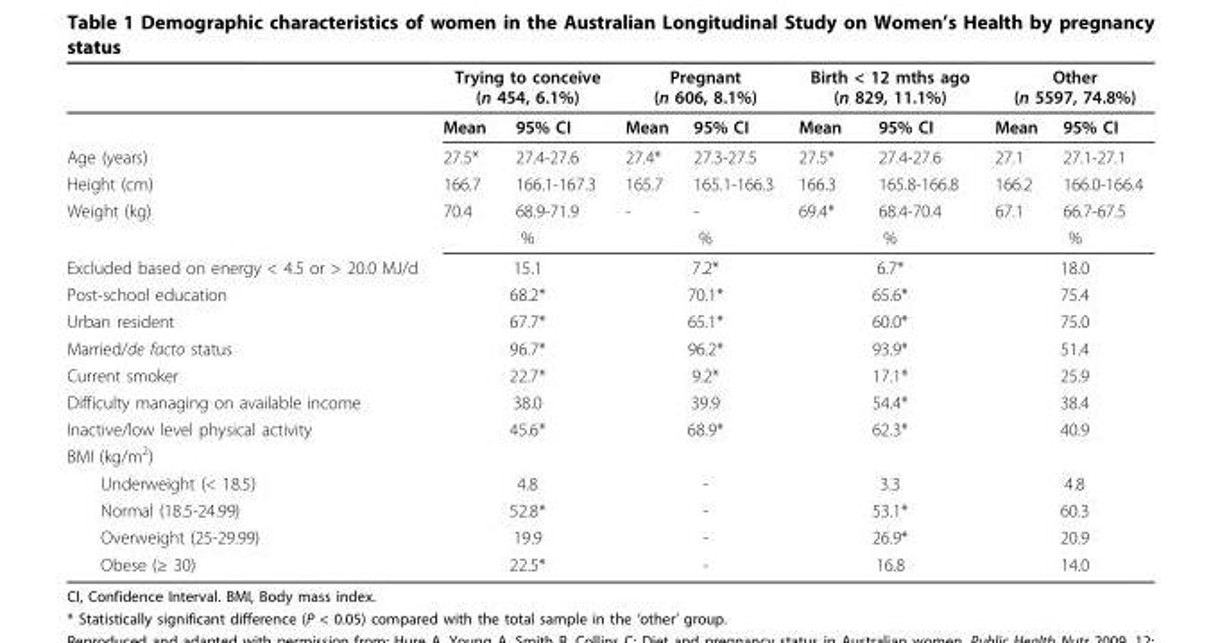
<table><thead><tr><td rowspan="2"></td><td colspan="2">Trying to conceive (n 454, 6.1%)</td><td colspan="2">Pregnant (n 606, 8.1%)</td><td colspan="2">Birth &lt; 12 mths ago (n 829, 11.1%)</td><td colspan="2">Other (n 5597, 74.8%)</td></tr><tr><td>Mean</td><td>95% CI</td><td>Mean</td><td>95% CI</td><td>Mean</td><td>95% CI</td><td>Mean</td><td>95% CI</td></tr></thead><tbody><tr><td>Age (years)</td><td>27.5*</td><td>27.4-27.6</td><td>27.4*</td><td>27.3-27.5</td><td>27.5*</td><td>27.4-27.6</td><td>27.1</td><td>27.1-27.1</td></tr><tr><td>Height (cm)</td><td>166.7</td><td>166.1-167.3</td><td>165.7</td><td>165.1-166.3</td><td>166.3</td><td>165.8-166.8</td><td>166.2</td><td>166.0-166.4</td></tr><tr><td rowspan="2">Weight (kg)</td><td>70.4</td><td>68.9-71.9</td><td>-</td><td>-</td><td>69.4*</td><td>68.4-70.4</td><td>67.1</td><td>66.7-67.5</td></tr><tr><td colspan="2">%</td><td colspan="2">%</td><td colspan="2">%</td><td colspan="2">%</td></tr><tr><td>Excluded based on energy &lt; 4.5 or &gt; 20.0 MJ/d</td><td colspan="2">15.1</td><td colspan="2">7.2*</td><td colspan="2">6.7*</td><td colspan="2">18.0</td></tr><tr><td>Post-school education</td><td colspan="2">68.2*</td><td colspan="2">70.1*</td><td colspan="2">65.6*</td><td colspan="2">75.4</td></tr><tr><td>Urban resident</td><td colspan="2">67.7*</td><td colspan="2">65.1*</td><td colspan="2">60.0*</td><td colspan="2">75.0</td></tr><tr><td>Married/de facto status</td><td colspan="2">96.7*</td><td colspan="2">96.2*</td><td colspan="2">93.9*</td><td colspan="2">51.4</td></tr><tr><td>Current smoker</td><td colspan="2">22.7*</td><td colspan="2">9.2*</td><td colspan="2">17.1*</td><td colspan="2">25.9</td></tr><tr><td>Difficulty managing on available income</td><td colspan="2">38.0</td><td colspan="2">39.9</td><td colspan="2">54.4*</td><td colspan="2">38.4</td></tr><tr><td>Inactive/low level physical activity</td><td colspan="2">45.6*</td><td colspan="2">68.9*</td><td colspan="2">62.3*</td><td colspan="2">40.9</td></tr><tr><td colspan="9">BMI (kg/m<sup>2</sup>)</td></tr><tr><td>Underweight (&lt; 18.5)</td><td colspan="2">4.8</td><td colspan="2">-</td><td colspan="2">3.3</td><td colspan="2">4.8</td></tr><tr><td>Normal (18.5-24.99)</td><td colspan="2">52.8*</td><td colspan="2">-</td><td colspan="2">53.1*</td><td colspan="2">60.3</td></tr><tr><td>Overweight (25-29.99)</td><td colspan="2">19.9</td><td colspan="2">-</td><td colspan="2">26.9*</td><td colspan="2">20.9</td></tr><tr><td>Obese (≥ 30)</td><td colspan="2">22.5*</td><td colspan="2">-</td><td colspan="2">16.8</td><td colspan="2">14.0</td></tr></tbody></table>